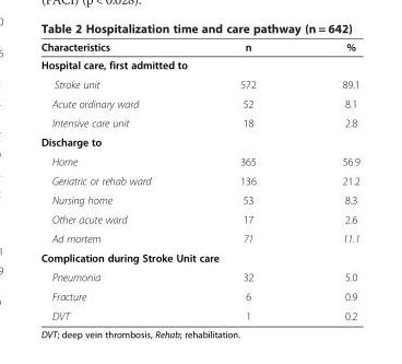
<table><thead><tr><td>Characteristics</td><td>n</td><td>%</td></tr></thead><tbody><tr><td colspan="3">Hospital care, first admitted to</td></tr><tr><td>Stroke unit</td><td>572</td><td>89.1</td></tr><tr><td>Acute ordinary ward</td><td>52</td><td>8.1</td></tr><tr><td>Intensive care unit</td><td>18</td><td>2.8</td></tr><tr><td colspan="3">Discharge to</td></tr><tr><td>Home</td><td>365</td><td>56.9</td></tr><tr><td>Geriatric or rehab ward</td><td>136</td><td>21.2</td></tr><tr><td>Nursing home</td><td>53</td><td>8.3</td></tr><tr><td>Other acute ward</td><td>17</td><td>2.6</td></tr><tr><td>Ad mortem</td><td>71</td><td>11.1</td></tr><tr><td colspan="3">Complication during Stroke Unit care</td></tr><tr><td>Pneumonia</td><td>32</td><td>5.0</td></tr><tr><td>Fracture</td><td>6</td><td>0.9</td></tr><tr><td>DVT</td><td>1</td><td>0.2</td></tr></tbody></table>